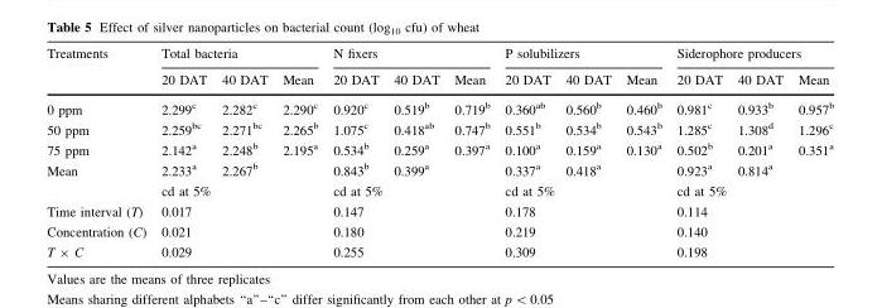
<table><thead><tr><td rowspan="2">Treatments</td><td colspan="3">Total bacteria</td><td colspan="3">N fixers</td><td colspan="3">P solubilizers</td><td colspan="3">Siderophore producers</td></tr><tr><td>20 DAT</td><td>40 DAT</td><td>Mean</td><td>20 DAT</td><td>40 DAT</td><td>Mean</td><td>20 DAT</td><td>40 DAT</td><td>Mean</td><td>20 DAT</td><td>40 DAT</td><td>Mean</td></tr></thead><tbody><tr><td>0 ppm</td><td>2.299<sup>c</sup></td><td>2.282<sup>c</sup></td><td>2.290<sup>c</sup></td><td>0.920<sup>c</sup></td><td>0.519<sup>b</sup></td><td>0.719<sup>b</sup></td><td>0.360<sup>ab</sup></td><td>0.560<sup>b</sup></td><td>0.460<sup>b</sup></td><td>0.981<sup>c</sup></td><td>0.933<sup>b</sup></td><td>0.957<sup>b</sup></td></tr><tr><td>50 ppm</td><td>2.259<sup>bc</sup></td><td>2.271<sup>bc</sup></td><td>2.265<sup>b</sup></td><td>1.075<sup>c</sup></td><td>0.418<sup>ab</sup></td><td>0.747<sup>b</sup></td><td>0.551<sup>b</sup></td><td>0.534<sup>b</sup></td><td>0.543<sup>b</sup></td><td>1.285<sup>c</sup></td><td>1.308<sup>d</sup></td><td>1.296<sup>c</sup></td></tr><tr><td>75 ppm</td><td>2.142<sup>a</sup></td><td>2.248<sup>b</sup></td><td>2.195<sup>a</sup></td><td>0.534<sup>b</sup></td><td>0.259<sup>a</sup></td><td>0.397<sup>a</sup></td><td>0.100<sup>a</sup></td><td>0.159<sup>a</sup></td><td>0.130<sup>a</sup></td><td>0.502<sup>b</sup></td><td>0.201<sup>a</sup></td><td>0.351<sup>a</sup></td></tr><tr><td rowspan="2">Mean</td><td>2.233<sup>a</sup></td><td>2.267<sup>b</sup></td><td></td><td>0.843<sup>b</sup></td><td>0.399<sup>a</sup></td><td></td><td>0.337<sup>a</sup></td><td>0.418<sup>a</sup></td><td></td><td>0.923<sup>a</sup></td><td>0.814<sup>a</sup></td><td></td></tr><tr><td colspan="2">cd at 5%</td><td></td><td colspan="2">cd at 5%</td><td></td><td colspan="2">cd at 5%</td><td></td><td colspan="2">cd at 5%</td><td></td></tr><tr><td>Time interval (T)</td><td colspan="2">0.017</td><td></td><td colspan="2">0.147</td><td></td><td colspan="2">0.178</td><td></td><td colspan="2">0.114</td><td></td></tr><tr><td>Concentration (C)</td><td colspan="2">0.021</td><td></td><td colspan="2">0.180</td><td></td><td colspan="2">0.219</td><td></td><td colspan="2">0.140</td><td></td></tr><tr><td>T × C</td><td colspan="2">0.029</td><td></td><td colspan="2">0.255</td><td></td><td colspan="2">0.309</td><td></td><td colspan="2">0.198</td><td></td></tr></tbody></table>